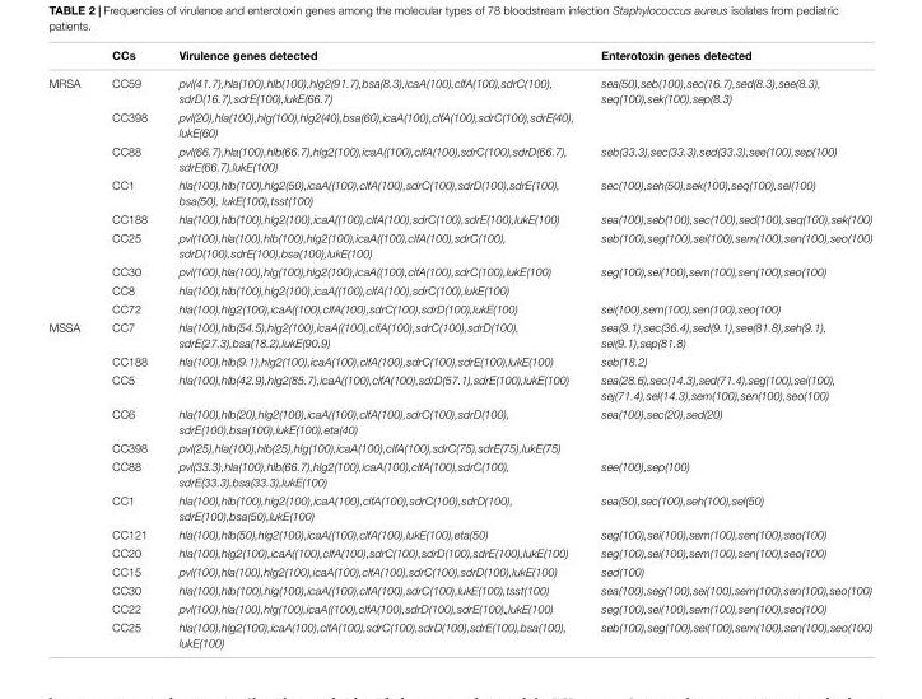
<table><thead><tr><td></td><td>CCs</td><td>Virulence genes detected</td><td>Enterotoxin genes detected</td></tr></thead><tbody><tr><td rowspan="9">MRSA</td><td>CC59</td><td>pvl(41.7),hla(100),hlb(100),hlg2(91.7),bsa(8.3),icaA(100),clfA(100),sdrC(100), sdrD(16.7),sdrE(100),lukE(66.7)</td><td>sea(50),seb(100),sec(16.7),sed(8.3),see(8.3), seq(100),sek(100),sep(8.3)</td></tr><tr><td>CC398</td><td>pvl(20),hla(100),hlg(100),hlg2(40),bsa(60),icaA(100),clfA(100),sdrC(100),sdrE(40), lukE(60)</td><td></td></tr><tr><td>CC88</td><td>pvl(66.7),hla(100),hlb(66.7),hlg2(100),icaA((100),clfA(100),sdrC(100),sdrD(66.7), sdrE(66.7),lukE(100)</td><td>seb(33.3),sec(33.3),sed(33.3),see(100),sep(100)</td></tr><tr><td>CC1</td><td>hla(100),hlb(100),hlg2(50),icaA((100),clfA(100),sdrC(100),sdrD(100),sdrE(100), bsa(50), lukE(100),tsst(100)</td><td>sec(100),seh(50),sek(100),seq(100),sel(100)</td></tr><tr><td>CC188</td><td>hla(100),hlb(100),hlg2(100),icaA((100),clfA(100),sdrC(100),sdrE(100),lukE(100)</td><td>sea(100),seb(100),sec(100),sed(100),seq(100),sek(100)</td></tr><tr><td>CC25</td><td>pvl(100),hla(100),hlb(100),hlg2(100),icaA((100),clfA(100),sdrC(100), sdrD(100),sdrE(100),bsa(100),lukE(100)</td><td>seb(100),seg(100),sei(100),sem(100),sen(100),seo(100)</td></tr><tr><td>CC30</td><td>pvl(100),hla(100),hlg(100),hlg2(100),icaA((100),clfA(100),sdrC(100),lukE(100)</td><td>seg(100),sei(100),sem(100),sen(100),seo(100)</td></tr><tr><td>CC8</td><td>hla(100),hlb(100),hlg2(100),icaA((100),clfA(100),sdrC(100),lukE(100)</td><td></td></tr><tr><td>CC72</td><td>hla(100),hlg2(100),icaA((100),clfA(100),sdrC(100),sdrD(100),lukE(100)</td><td>sei(100),sem(100),sen(100),seo(100)</td></tr><tr><td rowspan="13">MSSA</td><td>CC7</td><td>hla(100),hlb(54.5),hlg2(100),icaA((100),clfA(100),sdrC(100),sdrD(100), sdrE(27.3),bsa(18.2),lukE(90.9)</td><td>sea(9.1),sec(36.4),sed(9.1),see(81.8),seh(9.1), sei(9.1),sep(81.8)</td></tr><tr><td>CC188</td><td>hla(100),hlb(9.1),hlg2(100),icaA(100),clfA(100),sdrC(100),sdrE(100),lukE(100)</td><td>seb(18.2)</td></tr><tr><td>CC5</td><td>hla(100),hlb(42.9),hlg2(85.7),icaA((100),clfA(100),sdrD(57.1),sdrE(100),lukE(100)</td><td>sea(28.6),sec(14.3),sed(71.4),seg(100),sei(100), sej(71.4),sel(14.3),sem(100),sen(100),seo(100)</td></tr><tr><td>CC6</td><td>hla(100),hlb(20),hlg2(100),icaA((100),clfA(100),sdrC(100),sdrD(100), sdrE(100),bsa(100),lukE(100),eta(40)</td><td>sea(100),sec(20),sed(20)</td></tr><tr><td>CC398</td><td>pvl(25),hla(100),hlb(25),hlg(100),icaA(100),clfA(100),sdrC(75),sdrE(75),lukE(75)</td><td></td></tr><tr><td>CC88</td><td>pvl(33.3),hla(100),hlb(66.7),hlg2(100),icaA(100),clfA(100),sdrC(100), sdrE(33.3),bsa(33.3),lukE(100)</td><td>see(100),sep(100)</td></tr><tr><td>CC1</td><td>hla(100),hlb(100),hlg2(100),icaA(100),clfA(100),sdrC(100),sdrD(100), sdrE(100),bsa(50),lukE(100)</td><td>sea(50),sec(100),seh(100),sel(50)</td></tr><tr><td>CC121</td><td>hla(100),hlb(50),hlg2(100),icaA((100),clfA(100),lukE(100),eta(50)</td><td>seg(100),sei(100),sem(100),sen(100),seo(100)</td></tr><tr><td>CC20</td><td>hla(100),hlg2(100),icaA((100),clfA(100),sdrC(100),sdrD(100),sdrE(100),lukE(100)</td><td>seg(100),sei(100),sem(100),sen(100),seo(100)</td></tr><tr><td>CC15</td><td>pvl(100),hla(100),hlg2(100),icaA(100),clfA(100),sdrC(100),sdrD(100),lukE(100)</td><td>sed(100)</td></tr><tr><td>CC30</td><td>hla(100),hlb(100),hlg(100),icaA((100),clfA(100),sdrC(100),lukE(100),tsst(100)</td><td>sea(100),seg(100),sei(100),sem(100),sen(100),seo(100)</td></tr><tr><td>CC22</td><td>pvl(100),hla(100),hlg(100),icaA((100),clfA(100),sdrD(100),sdrE(100)„lukE(100)</td><td>seg(100),sei(100),sem(100),sen(100),seo(100)</td></tr><tr><td>CC25</td><td>hla(100),hlg2(100),icaA(100),clfA(100),sdrC(100),sdrD(100),sdrE(100),bsa(100), lukE(100)</td><td>seb(100),seg(100),sei(100),sem(100),sen(100),seo(100)</td></tr></tbody></table>